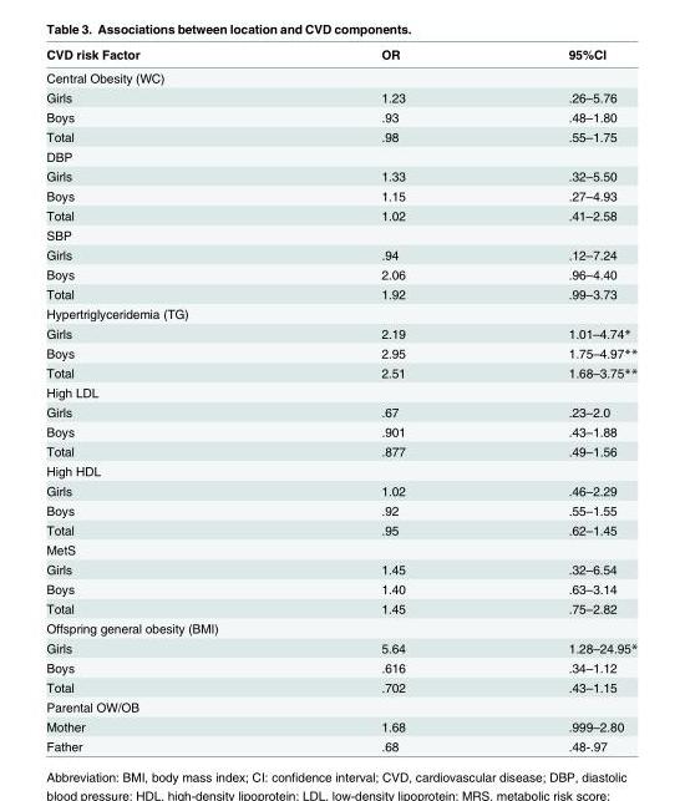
<table><thead><tr><td>CVD risk Factor</td><td>OR</td><td>95%CI</td></tr></thead><tbody><tr><td colspan="3">Central Obesity (WC)</td></tr><tr><td>Girls</td><td>1.23</td><td>.26–5.76</td></tr><tr><td>Boys</td><td>.93</td><td>.48–1.80</td></tr><tr><td>Total</td><td>.98</td><td>.55–1.75</td></tr><tr><td colspan="3">DBP</td></tr><tr><td>Girls</td><td>1.33</td><td>.32–5.50</td></tr><tr><td>Boys</td><td>1.15</td><td>.27–4.93</td></tr><tr><td>Total</td><td>1.02</td><td>.41–2.58</td></tr><tr><td colspan="3">SBP</td></tr><tr><td>Girls</td><td>.94</td><td>.12–7.24</td></tr><tr><td>Boys</td><td>2.06</td><td>.96–4.40</td></tr><tr><td>Total</td><td>1.92</td><td>.99–3.73</td></tr><tr><td colspan="3">Hypertriglyceridemia (TG)</td></tr><tr><td>Girls</td><td>2.19</td><td>1.01–4.74*</td></tr><tr><td>Boys</td><td>2.95</td><td>1.75–4.97**</td></tr><tr><td>Total</td><td>2.51</td><td>1.68–3.75**</td></tr><tr><td colspan="3">High LDL</td></tr><tr><td>Girls</td><td>.67</td><td>.23–2.0</td></tr><tr><td>Boys</td><td>.901</td><td>.43–1.88</td></tr><tr><td>Total</td><td>.877</td><td>.49–1.56</td></tr><tr><td colspan="3">High HDL</td></tr><tr><td>Girls</td><td>1.02</td><td>.46–2.29</td></tr><tr><td>Boys</td><td>.92</td><td>.55–1.55</td></tr><tr><td>Total</td><td>.95</td><td>.62–1.45</td></tr><tr><td colspan="3">MetS</td></tr><tr><td>Girls</td><td>1.45</td><td>.32–6.54</td></tr><tr><td>Boys</td><td>1.40</td><td>.63–3.14</td></tr><tr><td>Total</td><td>1.45</td><td>.75–2.82</td></tr><tr><td colspan="3">Offspring general obesity (BMI)</td></tr><tr><td>Girls</td><td>5.64</td><td>1.28–24.95*</td></tr><tr><td>Boys</td><td>.616</td><td>.34–1.12</td></tr><tr><td>Total</td><td>.702</td><td>.43–1.15</td></tr><tr><td colspan="3">Parental OW/OB</td></tr><tr><td>Mother</td><td>1.68</td><td>.999–2.80</td></tr><tr><td>Father</td><td>.68</td><td>.48-.97</td></tr></tbody></table>